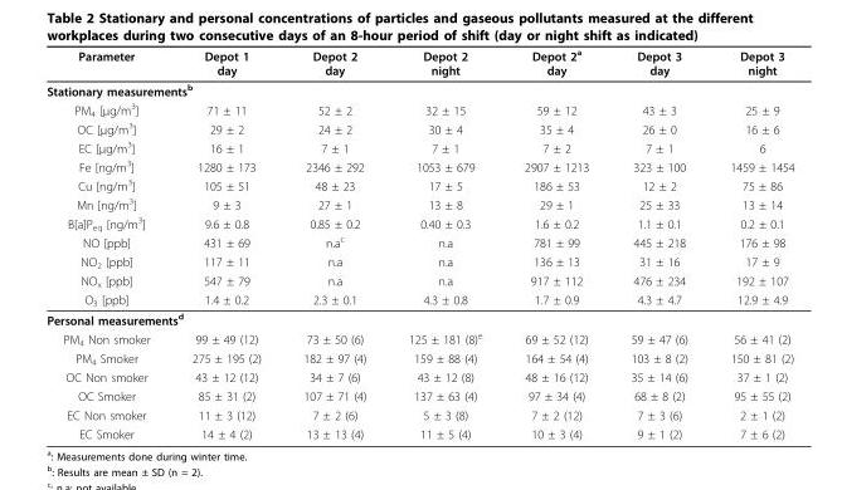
<table><thead><tr><td>Parameter</td><td>Depot 1 day</td><td>Depot 2 day</td><td>Depot 2 night</td><td>Depot 2<sup>a</sup> day</td><td>Depot 3 day</td><td>Depot 3 night</td></tr></thead><tbody><tr><td colspan="7">Stationary measurements<sup>b</sup></td></tr><tr><td>PM<sub>4</sub> [μg/m<sup>3</sup>]</td><td>71 ± 11</td><td>52 ± 2</td><td>32 ± 15</td><td>59 ± 12</td><td>43 ± 3</td><td>25 ± 9</td></tr><tr><td>OC [μg/m<sup>3</sup>]</td><td>29 ± 2</td><td>24 ± 2</td><td>30 ± 4</td><td>35 ± 4</td><td>26 ± 0</td><td>16 ± 6</td></tr><tr><td>EC [μg/m<sup>3</sup>]</td><td>16 ± 1</td><td>7 ± 1</td><td>7 ± 1</td><td>7 ± 2</td><td>7 ± 1</td><td>6</td></tr><tr><td>Fe [ng/m<sup>3</sup>]</td><td>1280 ± 173</td><td>2346 ± 292</td><td>1053 ± 679</td><td>2907 ± 1213</td><td>323 ± 100</td><td>1459 ± 1454</td></tr><tr><td>Cu [ng/m<sup>3</sup>]</td><td>105 ± 51</td><td>48 ± 23</td><td>17 ± 5</td><td>186 ± 53</td><td>12 ± 2</td><td>75 ± 86</td></tr><tr><td>Mn [ng/m<sup>3</sup>]</td><td>9 ± 3</td><td>27 ± 1</td><td>13 ± 8</td><td>29 ± 1</td><td>25 ± 33</td><td>13 ± 14</td></tr><tr><td>B[a]P<sub>eq</sub> [ng/m<sup>3</sup>]</td><td>9.6 ± 0.8</td><td>0.85 ± 0.2</td><td>0.40 ± 0.3</td><td>1.6 ± 0.2</td><td>1.1 ± 0.1</td><td>0.2 ± 0.1</td></tr><tr><td>NO [ppb]</td><td>431 ± 69</td><td>n.a<sup>c</sup></td><td>n.a</td><td>781 ± 99</td><td>445 ± 218</td><td>176 ± 98</td></tr><tr><td>NO<sub>2</sub> [ppb]</td><td>117 ± 11</td><td>n.a</td><td>n.a</td><td>136 ± 13</td><td>31 ± 16</td><td>17 ± 9</td></tr><tr><td>NO<sub>x</sub> [ppb]</td><td>547 ± 79</td><td>n.a</td><td>n.a</td><td>917 ± 112</td><td>476 ± 234</td><td>192 ± 107</td></tr><tr><td>O<sub>3</sub> [ppb]</td><td>1.4 ± 0.2</td><td>2.3 ± 0.1</td><td>4.3 ± 0.8</td><td>1.7 ± 0.9</td><td>4.3 ± 4.7</td><td>12.9 ± 4.9</td></tr><tr><td colspan="7">Personal measurements<sup>d</sup></td></tr><tr><td>PM<sub>4</sub> Non smoker</td><td>99 ± 49 (12)</td><td>73 ± 50 (6)</td><td>125 ± 181 (8)<sup>e</sup></td><td>69 ± 52 (12)</td><td>59 ± 47 (6)</td><td>56 ± 41 (2)</td></tr><tr><td>PM<sub>4</sub> Smoker</td><td>275 ± 195 (2)</td><td>182 ± 97 (4)</td><td>159 ± 88 (4)</td><td>164 ± 54 (4)</td><td>103 ± 8 (2)</td><td>150 ± 81 (2)</td></tr><tr><td>OC Non smoker</td><td>43 ± 12 (12)</td><td>34 ± 7 (6)</td><td>43 ± 12 (8)</td><td>48 ± 16 (12)</td><td>35 ± 14 (6)</td><td>37 ± 1 (2)</td></tr><tr><td>OC Smoker</td><td>85 ± 31 (2)</td><td>107 ± 71 (4)</td><td>137 ± 63 (4)</td><td>97 ± 34 (4)</td><td>68 ± 8 (2)</td><td>95 ± 55 (2)</td></tr><tr><td>EC Non smoker</td><td>11 ± 3 (12)</td><td>7 ± 2 (6)</td><td>5 ± 3 (8)</td><td>7 ± 2 (12)</td><td>7 ± 3 (6)</td><td>2 ± 1 (2)</td></tr><tr><td>EC Smoker</td><td>14 ± 4 (2)</td><td>13 ± 13 (4)</td><td>11 ± 5 (4)</td><td>10 ± 3 (4)</td><td>9 ± 1 (2)</td><td>7 ± 6 (2)</td></tr></tbody></table>